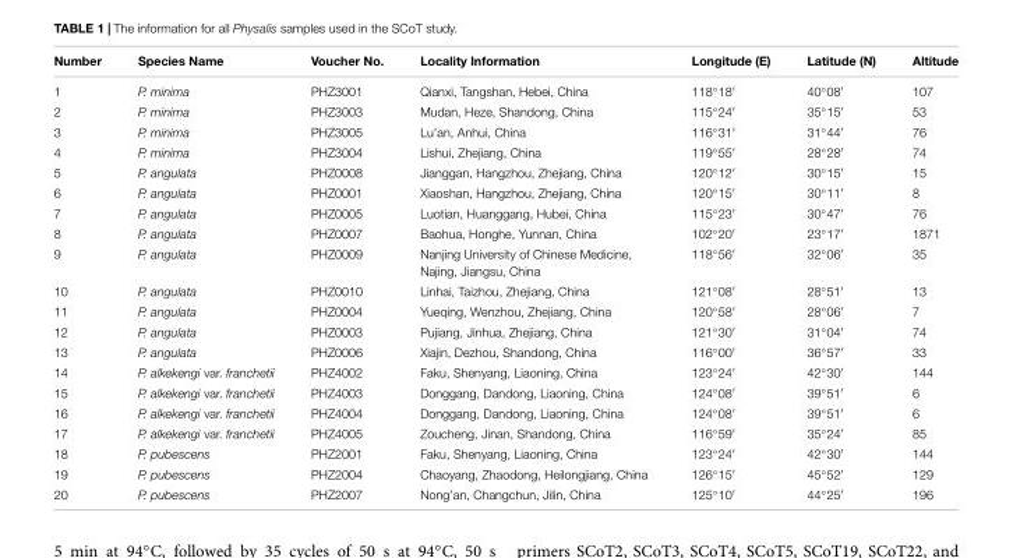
<table><thead><tr><td>Number</td><td>Species Name</td><td>Voucher No.</td><td>Locality Information</td><td>Longitude (E)</td><td>Latitude (N)</td><td>Altitude</td></tr></thead><tbody><tr><td>1</td><td>P. minima</td><td>PHZ3001</td><td>Qianxi, Tangshan, Hebei, China</td><td>118◦18′</td><td>40◦08′</td><td>107</td></tr><tr><td>2</td><td>P. minima</td><td>PHZ3003</td><td>Mudan, Heze, Shandong, China</td><td>115◦24′</td><td>35◦15′</td><td>53</td></tr><tr><td>3</td><td>P. minima</td><td>PHZ3005</td><td>Lu’an, Anhui, China</td><td>116◦31′</td><td>31◦44′</td><td>76</td></tr><tr><td>4</td><td>P. minima</td><td>PHZ3004</td><td>Lishui, Zhejiang, China</td><td>119◦55′</td><td>28◦28′</td><td>74</td></tr><tr><td>5</td><td>P. angulata</td><td>PHZ0008</td><td>Jianggan, Hangzhou, Zhejiang, China</td><td>120◦12′</td><td>30◦15′</td><td>15</td></tr><tr><td>6</td><td>P. angulata</td><td>PHZ0001</td><td>Xiaoshan, Hangzhou, Zhejiang, China</td><td>120◦15′</td><td>30◦11′</td><td>8</td></tr><tr><td>7</td><td>P. angulata</td><td>PHZ0005</td><td>Luotian, Huanggang, Hubei, China</td><td>115◦23′</td><td>30◦47′</td><td>76</td></tr><tr><td>8</td><td>P. angulata</td><td>PHZ0007</td><td>Baohua, Honghe, Yunnan, China</td><td>102◦20′</td><td>23◦17′</td><td>1871</td></tr><tr><td>9</td><td>P. angulata</td><td>PHZ0009</td><td>Nanjing University of Chinese Medicine, Najing, Jiangsu, China</td><td>118◦56′</td><td>32◦06′</td><td>35</td></tr><tr><td>10</td><td>P. angulata</td><td>PHZ0010</td><td>Linhai, Taizhou, Zhejiang, China</td><td>121◦08′</td><td>28◦51′</td><td>13</td></tr><tr><td>11</td><td>P. angulata</td><td>PHZ0004</td><td>Yueqing, Wenzhou, Zhejiang, China</td><td>120◦58′</td><td>28◦06′</td><td>7</td></tr><tr><td>12</td><td>P. angulata</td><td>PHZ0003</td><td>Pujiang, Jinhua, Zhejiang, China</td><td>121◦30′</td><td>31◦04′</td><td>74</td></tr><tr><td>13</td><td>P. angulata</td><td>PHZ0006</td><td>Xiajin, Dezhou, Shandong, China</td><td>116◦00′</td><td>36◦57′</td><td>33</td></tr><tr><td>14</td><td>P. alkekengi var. franchetii</td><td>PHZ4002</td><td>Faku, Shenyang, Liaoning, China</td><td>123◦24′</td><td>42◦30′</td><td>144</td></tr><tr><td>15</td><td>P. alkekengi var. franchetii</td><td>PHZ4003</td><td>Donggang, Dandong, Liaoning, China</td><td>124◦08′</td><td>39◦51′</td><td>6</td></tr><tr><td>16</td><td>P. alkekengi var. franchetii</td><td>PHZ4004</td><td>Donggang, Dandong, Liaoning, China</td><td>124◦08′</td><td>39◦51′</td><td>6</td></tr><tr><td>17</td><td>P. alkekengi var. franchetii</td><td>PHZ4005</td><td>Zoucheng, Jinan, Shandong, China</td><td>116◦59′</td><td>35◦24′</td><td>85</td></tr><tr><td>18</td><td>P. pubescens</td><td>PHZ2001</td><td>Faku, Shenyang, Liaoning, China</td><td>123◦24′</td><td>42◦30′</td><td>144</td></tr><tr><td>19</td><td>P. pubescens</td><td>PHZ2004</td><td>Chaoyang, Zhaodong, Heilongjiang, China</td><td>126◦15′</td><td>45◦52′</td><td>129</td></tr><tr><td>20</td><td>P. pubescens</td><td>PHZ2007</td><td>Nong’an, Changchun, Jilin, China</td><td>125◦10′</td><td>44◦25′</td><td>196</td></tr></tbody></table>